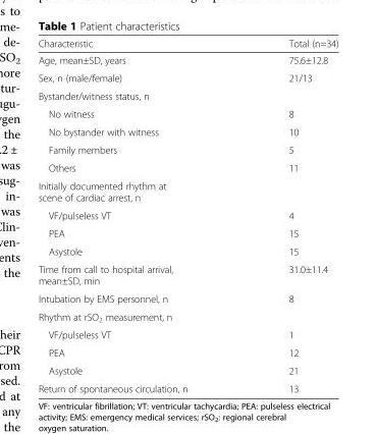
<table><thead><tr><td>Characteristic</td><td>Total (n=34)</td></tr></thead><tbody><tr><td>Age, mean±SD, years</td><td>75.6±12.8</td></tr><tr><td>Sex, n (male/female)</td><td>21/13</td></tr><tr><td colspan="2">Bystander/witness status, n</td></tr><tr><td>No witness</td><td>8</td></tr><tr><td>No bystander with witness</td><td>10</td></tr><tr><td>Family members</td><td>5</td></tr><tr><td>Others</td><td>11</td></tr><tr><td colspan="2">Initially documented rhythm at scene of cardiac arrest, n</td></tr><tr><td>VF/pulseless VT</td><td>4</td></tr><tr><td>PEA</td><td>15</td></tr><tr><td>Asystole</td><td>15</td></tr><tr><td>Time from call to hospital arrival, mean±SD, min</td><td>31.0±11.4</td></tr><tr><td>Intubation by EMS personnel, n</td><td>8</td></tr><tr><td colspan="2">Rhythm at rSO<sub>2</sub> measurement, n</td></tr><tr><td>VF/pulseless VT</td><td>1</td></tr><tr><td>PEA</td><td>12</td></tr><tr><td>Asystole</td><td>21</td></tr><tr><td>Return of spontaneous circulation, n</td><td>13</td></tr></tbody></table>